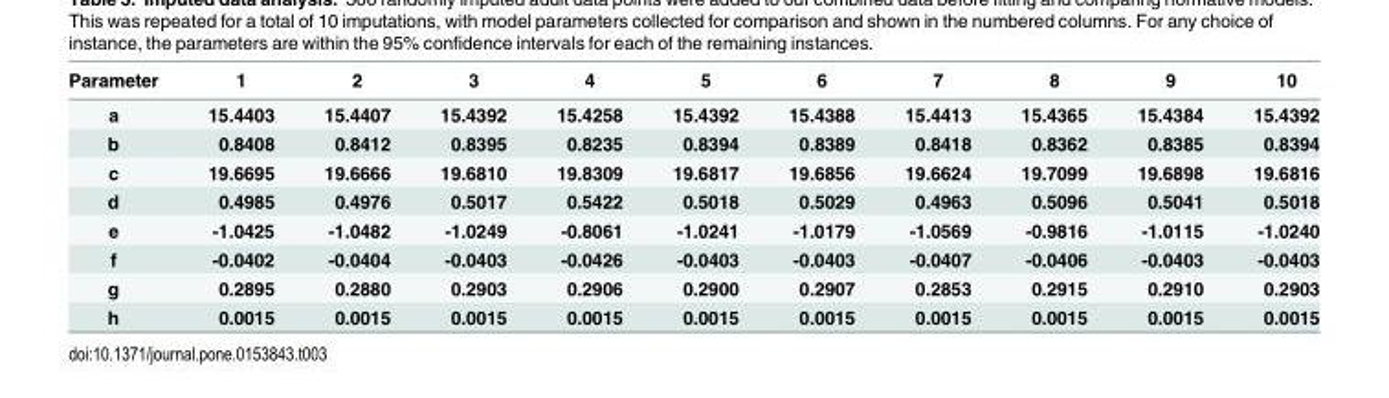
<table><thead><tr><td>Parameter</td><td>1</td><td>2</td><td>3</td><td>4</td><td>5</td><td>6</td><td>7</td><td>8</td><td>9</td><td>10</td></tr></thead><tbody><tr><td>a</td><td>15.4403</td><td>15.4407</td><td>15.4392</td><td>15.4258</td><td>15.4392</td><td>15.4388</td><td>15.4413</td><td>15.4365</td><td>15.4384</td><td>15.4392</td></tr><tr><td>b</td><td>0.8408</td><td>0.8412</td><td>0.8395</td><td>0.8235</td><td>0.8394</td><td>0.8389</td><td>0.8418</td><td>0.8362</td><td>0.8385</td><td>0.8394</td></tr><tr><td>c</td><td>19.6695</td><td>19.6666</td><td>19.6810</td><td>19.8309</td><td>19.6817</td><td>19.6856</td><td>19.6624</td><td>19.7099</td><td>19.6898</td><td>19.6816</td></tr><tr><td>d</td><td>0.4985</td><td>0.4976</td><td>0.5017</td><td>0.5422</td><td>0.5018</td><td>0.5029</td><td>0.4963</td><td>0.5096</td><td>0.5041</td><td>0.5018</td></tr><tr><td>e</td><td>-1.0425</td><td>-1.0482</td><td>-1.0249</td><td>-0.8061</td><td>-1.0241</td><td>-1.0179</td><td>-1.0569</td><td>-0.9816</td><td>-1.0115</td><td>-1.0240</td></tr><tr><td>f</td><td>-0.0402</td><td>-0.0404</td><td>-0.0403</td><td>-0.0426</td><td>-0.0403</td><td>-0.0403</td><td>-0.0407</td><td>-0.0406</td><td>-0.0403</td><td>-0.0403</td></tr><tr><td>g</td><td>0.2895</td><td>0.2880</td><td>0.2903</td><td>0.2906</td><td>0.2900</td><td>0.2907</td><td>0.2853</td><td>0.2915</td><td>0.2910</td><td>0.2903</td></tr><tr><td>h</td><td>0.0015</td><td>0.0015</td><td>0.0015</td><td>0.0015</td><td>0.0015</td><td>0.0015</td><td>0.0015</td><td>0.0015</td><td>0.0015</td><td>0.0015</td></tr></tbody></table>